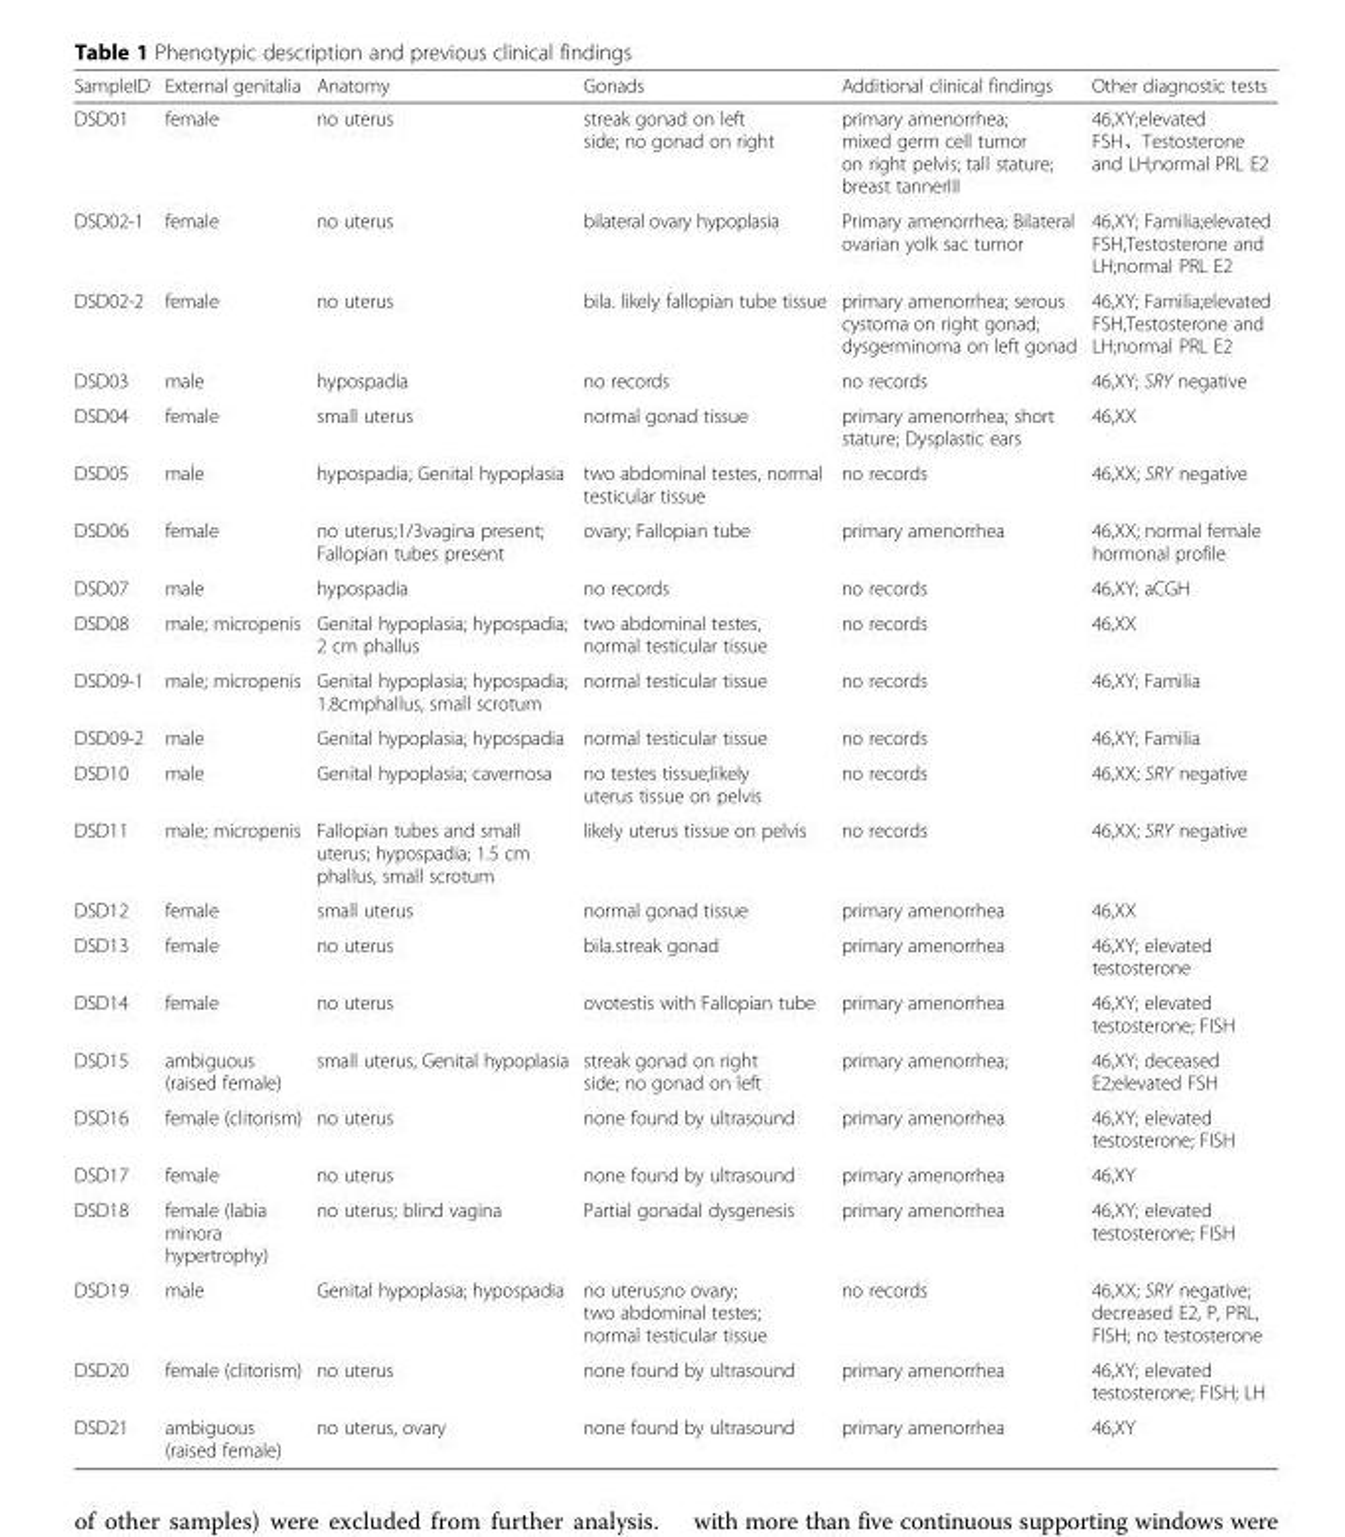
<table><thead><tr><td>SampleID</td><td>External genitalia</td><td>Anatomy</td><td>Gonads</td><td>Additional clinical findings</td><td>Other diagnostic tests</td></tr></thead><tbody><tr><td>DSD01</td><td>female</td><td>no uterus</td><td>streak gonad on left side; no gonad on right</td><td>primary amenorrhea; mixed germ cell tumor on right pelvis; tall stature; breast tannerIII</td><td>46,XY;elevated FSH、Testosterone and LH;normal PRL E2</td></tr><tr><td>DSD02-1</td><td>female</td><td>no uterus</td><td>bilateral ovary hypoplasia</td><td>Primary amenorrhea; Bilateral ovarian yolk sac tumor</td><td>46,XY; Familia;elevated FSH,Testosterone and LH;normal PRL E2</td></tr><tr><td>DSD02-2</td><td>female</td><td>no uterus</td><td>bila. likely fallopian tube tissue</td><td>primary amenorrhea; serous cystoma on right gonad; dysgerminoma on left gonad</td><td>46,XY; Familia;elevated FSH,Testosterone and LH;normal PRL E2</td></tr><tr><td>DSD03</td><td>male</td><td>hypospadia</td><td>no records</td><td>no records</td><td>46,XY; SRY negative</td></tr><tr><td>DSD04</td><td>female</td><td>small uterus</td><td>normal gonad tissue</td><td>primary amenorrhea; short stature; Dysplastic ears</td><td>46,XX</td></tr><tr><td>DSD05</td><td>male</td><td>hypospadia; Genital hypoplasia</td><td>two abdominal testes, normal testicular tissue</td><td>no records</td><td>46,XX; SRY negative</td></tr><tr><td>DSD06</td><td>female</td><td>no uterus;1/3vagina present; Fallopian tubes present</td><td>ovary; Fallopian tube</td><td>primary amenorrhea</td><td>46,XX; normal female hormonal profile</td></tr><tr><td>DSD07</td><td>male</td><td>hypospadia</td><td>no records</td><td>no records</td><td>46,XY; aCGH</td></tr><tr><td>DSD08</td><td>male; micropenis</td><td>Genital hypoplasia; hypospadia; 2 cm phallus</td><td>two abdominal testes, normal testicular tissue</td><td>no records</td><td>46,XX</td></tr><tr><td>DSD09-1</td><td>male; micropenis</td><td>Genital hypoplasia; hypospadia; 1.8cmphallus, small scrotum</td><td>normal testicular tissue</td><td>no records</td><td>46,XY; Familia</td></tr><tr><td>DSD09-2</td><td>male</td><td>Genital hypoplasia; hypospadia</td><td>normal testicular tissue</td><td>no records</td><td>46,XY; Familia</td></tr><tr><td>DSD10</td><td>male</td><td>Genital hypoplasia; cavernosa</td><td>no testes tissue;likely uterus tissue on pelvis</td><td>no records</td><td>46,XX; SRY negative</td></tr><tr><td>DSD11</td><td>male; micropenis</td><td>Fallopian tubes and small uterus; hypospadia; 1.5 cm phallus, small scrotum</td><td>likely uterus tissue on pelvis</td><td>no records</td><td>46,XX; SRY negative</td></tr><tr><td>DSD12</td><td>female</td><td>small uterus</td><td>normal gonad tissue</td><td>primary amenorrhea</td><td>46,XX</td></tr><tr><td>DSD13</td><td>female</td><td>no uterus</td><td>bila.streak gonad</td><td>primary amenorrhea</td><td>46,XY; elevated testosterone</td></tr><tr><td>DSD14</td><td>female</td><td>no uterus</td><td>ovotestis with Fallopian tube</td><td>primary amenorrhea</td><td>46,XY; elevated testosterone; FISH</td></tr><tr><td>DSD15</td><td>ambiguous (raised female)</td><td>small uterus, Genital hypoplasia</td><td>streak gonad on right side; no gonad on left</td><td>primary amenorrhea;</td><td>46,XY; deceased E2;elevated FSH</td></tr><tr><td>DSD16</td><td>female (clitorism)</td><td>no uterus</td><td>none found by ultrasound</td><td>primary amenorrhea</td><td>46,XY; elevated testosterone; FISH</td></tr><tr><td>DSD17</td><td>female</td><td>no uterus</td><td>none found by ultrasound</td><td>primary amenorrhea</td><td>46,XY</td></tr><tr><td>DSD18</td><td>female (labia minora hypertrophy)</td><td>no uterus; blind vagina</td><td>Partial gonadal dysgenesis</td><td>primary amenorrhea</td><td>46,XY; elevated testosterone; FISH</td></tr><tr><td>DSD19</td><td>male</td><td>Genital hypoplasia; hypospadia</td><td>no uterus;no ovary; two abdominal testes; normal testicular tissue</td><td>no records</td><td>46,XX; SRY negative; decreased E2, P, PRL, FISH; no testosterone</td></tr><tr><td>DSD20</td><td>female (clitorism)</td><td>no uterus</td><td>none found by ultrasound</td><td>primary amenorrhea</td><td>46,XY; elevated testosterone; FISH; LH</td></tr><tr><td>DSD21</td><td>ambiguous (raised female)</td><td>no uterus, ovary</td><td>none found by ultrasound</td><td>primary amenorrhea</td><td>46,XY</td></tr></tbody></table>